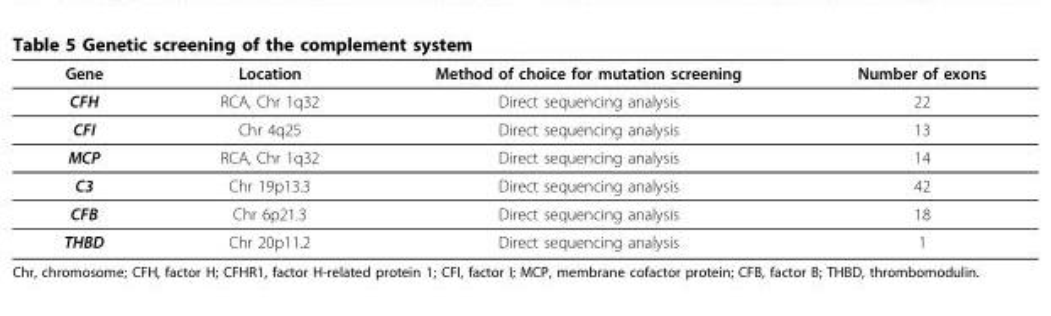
<table><thead><tr><td>Gene</td><td>Location</td><td>Method of choice for mutation screening</td><td>Number of exons</td></tr></thead><tbody><tr><td>CFH</td><td>RCA, Chr 1q32</td><td>Direct sequencing analysis</td><td>22</td></tr><tr><td>CFI</td><td>Chr 4q25</td><td>Direct sequencing analysis</td><td>13</td></tr><tr><td>MCP</td><td>RCA, Chr 1q32</td><td>Direct sequencing analysis</td><td>14</td></tr><tr><td>C3</td><td>Chr 19p13.3</td><td>Direct sequencing analysis</td><td>42</td></tr><tr><td>CFB</td><td>Chr 6p21.3</td><td>Direct sequencing analysis</td><td>18</td></tr><tr><td>THBD</td><td>Chr 20p11.2</td><td>Direct sequencing analysis</td><td>1</td></tr></tbody></table>